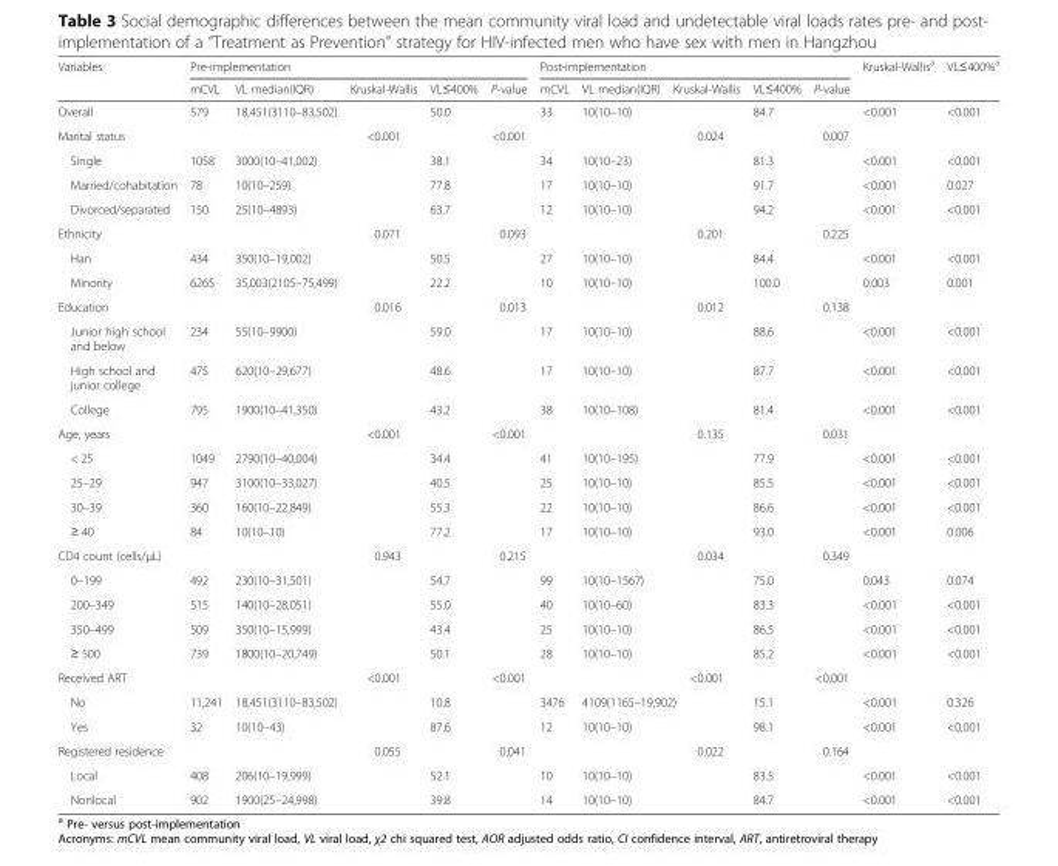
<table><thead><tr><td rowspan="2">Variables</td><td colspan="5">Pre-implementation</td><td colspan="5">Post-implementation</td><td rowspan="2">Kruskal-Wallis<sup>a</sup></td><td rowspan="2">VL≤400%<sup>a</sup></td></tr><tr><td>mCVL</td><td>VL median(IQR)</td><td>Kruskal-Wallis</td><td>VL≤400%</td><td>P-value</td><td>mCVL</td><td>VL median(IQR)</td><td>Kruskal-Wallis</td><td>VL≤400%</td><td>P-value</td></tr></thead><tbody><tr><td>Overall</td><td>579</td><td>18,451(3110–83,502)</td><td></td><td>50.0</td><td></td><td>33</td><td>10(10–10)</td><td></td><td>84.7</td><td></td><td>&lt;0.001</td><td>&lt;0.001</td></tr><tr><td>Marital status</td><td></td><td></td><td>&lt;0.001</td><td></td><td>&lt;0.001</td><td></td><td></td><td>0.024</td><td></td><td>0.007</td><td></td><td></td></tr><tr><td>Single</td><td>1058</td><td>3000(10–41,002)</td><td></td><td>38.1</td><td></td><td>34</td><td>10(10–23)</td><td></td><td>81.3</td><td></td><td>&lt;0.001</td><td>&lt;0.001</td></tr><tr><td>Married/cohabitation</td><td>78</td><td>10(10–259)</td><td></td><td>77.8</td><td></td><td>17</td><td>10(10–10)</td><td></td><td>91.7</td><td></td><td>&lt;0.001</td><td>0.027</td></tr><tr><td>Divorced/separated</td><td>150</td><td>25(10–4893)</td><td></td><td>63.7</td><td></td><td>12</td><td>10(10–10)</td><td></td><td>94.2</td><td></td><td>&lt;0.001</td><td>&lt;0.001</td></tr><tr><td>Ethnicity</td><td></td><td></td><td>0.071</td><td></td><td>0.093</td><td></td><td></td><td>0.201</td><td></td><td>0.225</td><td></td><td></td></tr><tr><td>Han</td><td>434</td><td>350(10–19,002)</td><td></td><td>50.5</td><td></td><td>27</td><td>10(10–10)</td><td></td><td>84.4</td><td></td><td>&lt;0.001</td><td>&lt;0.001</td></tr><tr><td>Minority</td><td>6265</td><td>35,003(2105–75,499)</td><td></td><td>22.2</td><td></td><td>10</td><td>10(10–10)</td><td></td><td>100.0</td><td></td><td>0.003</td><td>0.001</td></tr><tr><td>Education</td><td></td><td></td><td>0.016</td><td></td><td>0.013</td><td></td><td></td><td>0.012</td><td></td><td>0.138</td><td></td><td></td></tr><tr><td>Junior high school and below</td><td>234</td><td>55(10–9900)</td><td></td><td>59.0</td><td></td><td>17</td><td>10(10–10)</td><td></td><td>88.6</td><td></td><td>&lt;0.001</td><td>&lt;0.001</td></tr><tr><td>High school and junior college</td><td>475</td><td>620(10–29,677)</td><td></td><td>48.6</td><td></td><td>17</td><td>10(10–10)</td><td></td><td>87.7</td><td></td><td>&lt;0.001</td><td>&lt;0.001</td></tr><tr><td>College</td><td>795</td><td>1900(10–41,350)</td><td></td><td>43.2</td><td></td><td>38</td><td>10(10–108)</td><td></td><td>81.4</td><td></td><td>&lt;0.001</td><td>&lt;0.001</td></tr><tr><td>Age, years</td><td></td><td></td><td>&lt;0.001</td><td></td><td>&lt;0.001</td><td></td><td></td><td>0.135</td><td></td><td>0.031</td><td></td><td></td></tr><tr><td>&lt; 25</td><td>1049</td><td>2790(10–40,004)</td><td></td><td>34.4</td><td></td><td>41</td><td>10(10–195)</td><td></td><td>77.9</td><td></td><td>&lt;0.001</td><td>&lt;0.001</td></tr><tr><td>25–29</td><td>947</td><td>3100(10–33,027)</td><td></td><td>40.5</td><td></td><td>25</td><td>10(10–10)</td><td></td><td>85.5</td><td></td><td>&lt;0.001</td><td>&lt;0.001</td></tr><tr><td>30–39</td><td>360</td><td>160(10–22,849)</td><td></td><td>55.3</td><td></td><td>22</td><td>10(10–10)</td><td></td><td>86.6</td><td></td><td>&lt;0.001</td><td>&lt;0.001</td></tr><tr><td>≥ 40</td><td>84</td><td>10(10–10)</td><td></td><td>77.2</td><td></td><td>17</td><td>10(10–10)</td><td></td><td>93.0</td><td></td><td>&lt;0.001</td><td>0.006</td></tr><tr><td>CD4 count (cells/μL)</td><td></td><td></td><td>0.943</td><td></td><td>0.215</td><td></td><td></td><td>0.034</td><td></td><td>0.349</td><td></td><td></td></tr><tr><td>0–199</td><td>492</td><td>230(10–31,501)</td><td></td><td>54.7</td><td></td><td>99</td><td>10(10–1567)</td><td></td><td>75.0</td><td></td><td>0.043</td><td>0.074</td></tr><tr><td>200–349</td><td>515</td><td>140(10–28,051)</td><td></td><td>55.0</td><td></td><td>40</td><td>10(10–60)</td><td></td><td>83.3</td><td></td><td>&lt;0.001</td><td>&lt;0.001</td></tr><tr><td>350–499</td><td>509</td><td>350(10–15,999)</td><td></td><td>43.4</td><td></td><td>25</td><td>10(10–10)</td><td></td><td>86.5</td><td></td><td>&lt;0.001</td><td>&lt;0.001</td></tr><tr><td>≥ 500</td><td>739</td><td>1800(10–20,749)</td><td></td><td>50.1</td><td></td><td>28</td><td>10(10–10)</td><td></td><td>85.2</td><td></td><td>&lt;0.001</td><td>&lt;0.001</td></tr><tr><td>Received ART</td><td></td><td></td><td>&lt;0.001</td><td></td><td>&lt;0.001</td><td></td><td></td><td>&lt;0.001</td><td></td><td>&lt;0.001</td><td></td><td></td></tr><tr><td>No</td><td>11,241</td><td>18,451(3110–83,502)</td><td></td><td>10.8</td><td></td><td>3476</td><td colspan="2">4109(1165–19,902)</td><td>15.1</td><td></td><td>&lt;0.001</td><td>0.326</td></tr><tr><td>Yes</td><td>32</td><td>10(10–43)</td><td></td><td>87.6</td><td></td><td>12</td><td>10(10–10)</td><td></td><td>98.1</td><td></td><td>&lt;0.001</td><td>&lt;0.001</td></tr><tr><td>Registered residence</td><td></td><td></td><td>0.055</td><td></td><td>0.041</td><td></td><td></td><td>0.022</td><td></td><td>0.164</td><td></td><td></td></tr><tr><td>Local</td><td>408</td><td>206(10–19,999)</td><td></td><td>52.1</td><td></td><td>10</td><td>10(10–10)</td><td></td><td>83.5</td><td></td><td>&lt;0.001</td><td>&lt;0.001</td></tr><tr><td>Nonlocal</td><td>902</td><td>1900(25–24,998)</td><td></td><td>39.8</td><td></td><td>14</td><td>10(10–10)</td><td></td><td>84.7</td><td></td><td>&lt;0.001</td><td>&lt;0.001</td></tr></tbody></table>